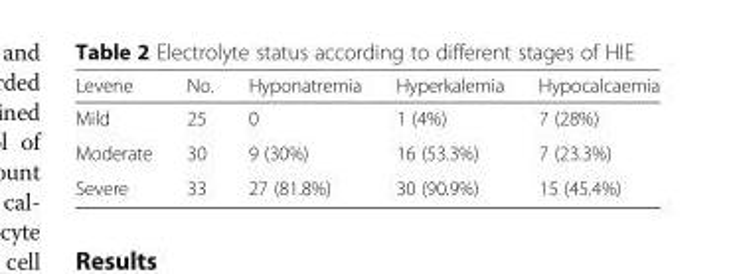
<table><thead><tr><td>Levene</td><td>No.</td><td>Hyponatremia</td><td>Hyperkalemia</td><td>Hypocalcaemia</td></tr></thead><tbody><tr><td>Mild</td><td>25</td><td>0</td><td>1 (4%)</td><td>7 (28%)</td></tr><tr><td>Moderate</td><td>30</td><td>9 (30%)</td><td>16 (53.3%)</td><td>7 (23.3%)</td></tr><tr><td>Severe</td><td>33</td><td>27 (81.8%)</td><td>30 (90.9%)</td><td>15 (45.4%)</td></tr></tbody></table>